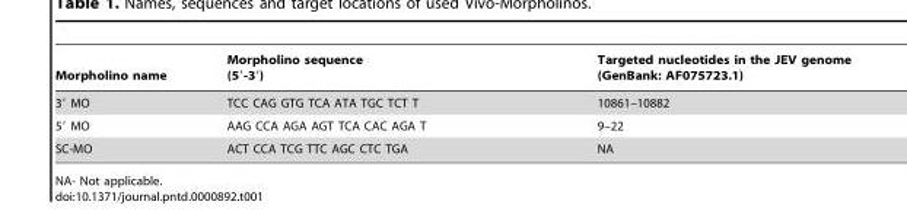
<table><thead><tr><td>Morpholino name</td><td>Morpholino sequence (5′-3′)</td><td>Targeted nucleotides in the JEV genome (GenBank: AF075723.1)</td></tr></thead><tbody><tr><td>3′ MO</td><td>TCC CAG GTG TCA ATA TGC TCT T</td><td>10861–10882</td></tr><tr><td>5′ MO</td><td>AAG CCA AGA AGT TCA CAC AGA T</td><td>9–22</td></tr><tr><td>SC-MO</td><td>ACT CCA TCG TTC AGC CTC TGA</td><td>NA</td></tr></tbody></table>